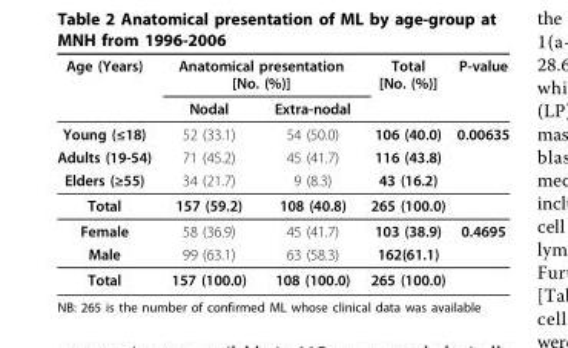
<table><thead><tr><td rowspan="2">Age (Years)</td><td colspan="2">Anatomical presentation [No. (%)]</td><td rowspan="2">Total [No. (%)]</td><td rowspan="2">P-value</td></tr><tr><td>Nodal</td><td>Extra-nodal</td></tr></thead><tbody><tr><td>Young (≤18)</td><td>52 (33.1)</td><td>54 (50.0)</td><td>106 (40.0)</td><td>0.00635</td></tr><tr><td>Adults (19-54)</td><td>71 (45.2)</td><td>45 (41.7)</td><td>116 (43.8)</td><td></td></tr><tr><td>Elders (≥55)</td><td>34 (21.7)</td><td>9 (8.3)</td><td>43 (16.2)</td><td></td></tr><tr><td>Total</td><td>157 (59.2)</td><td>108 (40.8)</td><td>265 (100.0)</td><td></td></tr><tr><td>Female</td><td>58 (36.9)</td><td>45 (41.7)</td><td>103 (38.9)</td><td>0.4695</td></tr><tr><td>Male</td><td>99 (63.1)</td><td>63 (58.3)</td><td>162(61.1)</td><td></td></tr><tr><td>Total</td><td>157 (100.0)</td><td>108 (100.0)</td><td>265 (100.0)</td><td></td></tr></tbody></table>